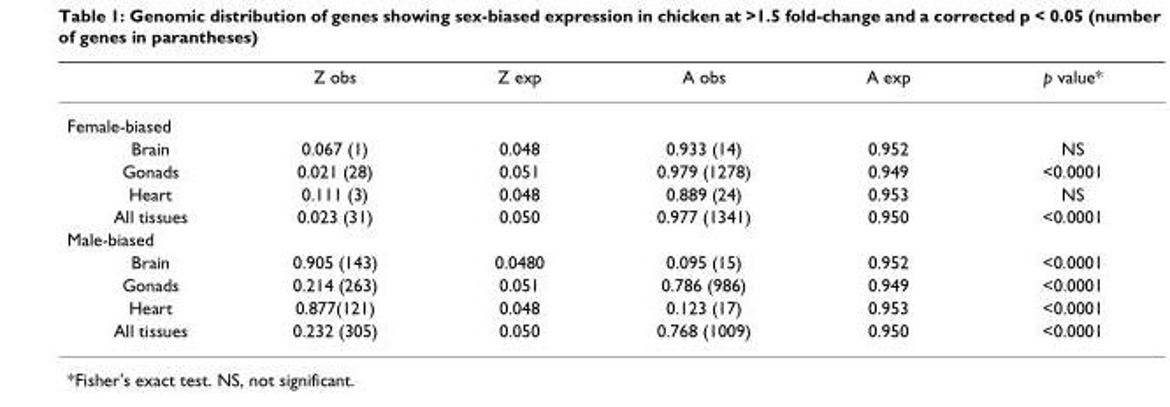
<table><thead><tr><td></td><td>Z obs</td><td>Z exp</td><td>A obs</td><td>A exp</td><td>p value*</td></tr></thead><tbody><tr><td colspan="6">Female-biased</td></tr><tr><td>Brain</td><td>0.067 (1)</td><td>0.048</td><td>0.933 (14)</td><td>0.952</td><td>NS</td></tr><tr><td>Gonads</td><td>0.021 (28)</td><td>0.051</td><td>0.979 (1278)</td><td>0.949</td><td>&lt;0.0001</td></tr><tr><td>Heart</td><td>0.111 (3)</td><td>0.048</td><td>0.889 (24)</td><td>0.953</td><td>NS</td></tr><tr><td>All tissues</td><td>0.023 (31)</td><td>0.050</td><td>0.977 (1341)</td><td>0.950</td><td>&lt;0.0001</td></tr><tr><td colspan="6">Male-biased</td></tr><tr><td>Brain</td><td>0.905 (143)</td><td>0.0480</td><td>0.095 (15)</td><td>0.952</td><td>&lt;0.0001</td></tr><tr><td>Gonads</td><td>0.214 (263)</td><td>0.051</td><td>0.786 (986)</td><td>0.949</td><td>&lt;0.0001</td></tr><tr><td>Heart</td><td>0.877(121)</td><td>0.048</td><td>0.123 (17)</td><td>0.953</td><td>&lt;0.0001</td></tr><tr><td>All tissues</td><td>0.232 (305)</td><td>0.050</td><td>0.768 (1009)</td><td>0.950</td><td>&lt;0.0001</td></tr></tbody></table>